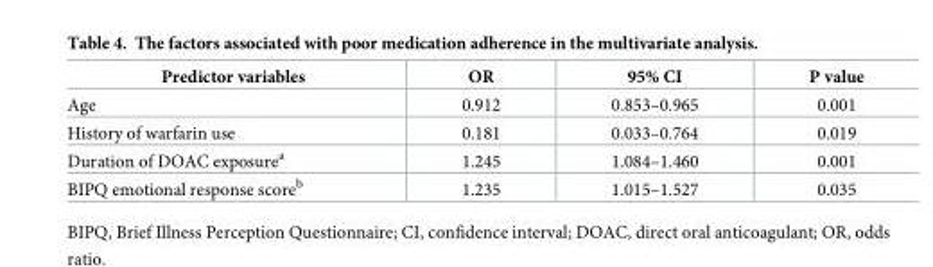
<table><thead><tr><td>Predictor variables</td><td>OR</td><td>95% CI</td><td>P value</td></tr></thead><tbody><tr><td>Age</td><td>0.912</td><td>0.853–0.965</td><td>0.001</td></tr><tr><td>History of warfarin use</td><td>0.181</td><td>0.033–0.764</td><td>0.019</td></tr><tr><td>Duration of DOAC exposure<sup>a</sup></td><td>1.245</td><td>1.084–1.460</td><td>0.001</td></tr><tr><td>BIPQ emotional response score<sup>b</sup></td><td>1.235</td><td>1.015–1.527</td><td>0.035</td></tr></tbody></table>